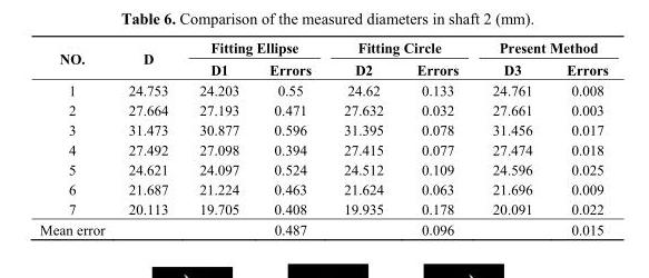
<table><thead><tr><td rowspan="2">NO.</td><td rowspan="2">D</td><td colspan="2">Fitting Ellipse</td><td colspan="2">Fitting Circle</td><td colspan="2">Present Method</td></tr><tr><td>D1</td><td>Errors</td><td>D2</td><td>Errors</td><td>D3</td><td>Errors</td></tr></thead><tbody><tr><td>1</td><td>24.753</td><td>24.203</td><td>0.55</td><td>24.62</td><td>0.133</td><td>24.761</td><td>0.008</td></tr><tr><td>2</td><td>27.664</td><td>27.193</td><td>0.471</td><td>27.632</td><td>0.032</td><td>27.661</td><td>0.003</td></tr><tr><td>3</td><td>31.473</td><td>30.877</td><td>0.596</td><td>31.395</td><td>0.078</td><td>31.456</td><td>0.017</td></tr><tr><td>4</td><td>27.492</td><td>27.098</td><td>0.394</td><td>27.415</td><td>0.077</td><td>27.474</td><td>0.018</td></tr><tr><td>5</td><td>24.621</td><td>24.097</td><td>0.524</td><td>24.512</td><td>0.109</td><td>24.596</td><td>0.025</td></tr><tr><td>6</td><td>21.687</td><td>21.224</td><td>0.463</td><td>21.624</td><td>0.063</td><td>21.696</td><td>0.009</td></tr><tr><td>7</td><td>20.113</td><td>19.705</td><td>0.408</td><td>19.935</td><td>0.178</td><td>20.091</td><td>0.022</td></tr><tr><td>Mean error</td><td></td><td></td><td>0.487</td><td></td><td>0.096</td><td></td><td>0.015</td></tr></tbody></table>